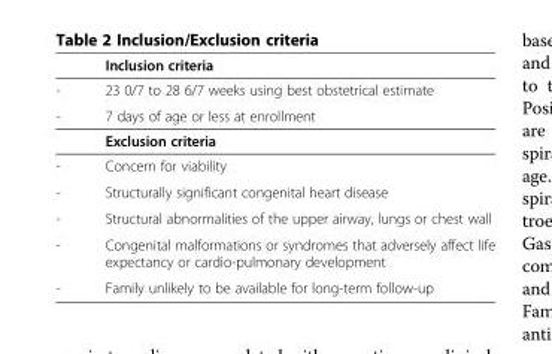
<table><thead><tr><td></td><td>Inclusion criteria</td></tr></thead><tbody><tr><td>-</td><td>23 0/7 to 28 6/7 weeks using best obstetrical estimate</td></tr><tr><td rowspan="2">-</td><td>7 days of age or less at enrollment</td></tr><tr><td>Exclusion criteria</td></tr><tr><td>-</td><td>Concern for viability</td></tr><tr><td>-</td><td>Structurally significant congenital heart disease</td></tr><tr><td>-</td><td>Structural abnormalities of the upper airway, lungs or chest wall</td></tr><tr><td>-</td><td>Congenital malformations or syndromes that adversely affect life expectancy or cardio-pulmonary development</td></tr><tr><td>-</td><td>Family unlikely to be available for long-term follow-up</td></tr></tbody></table>